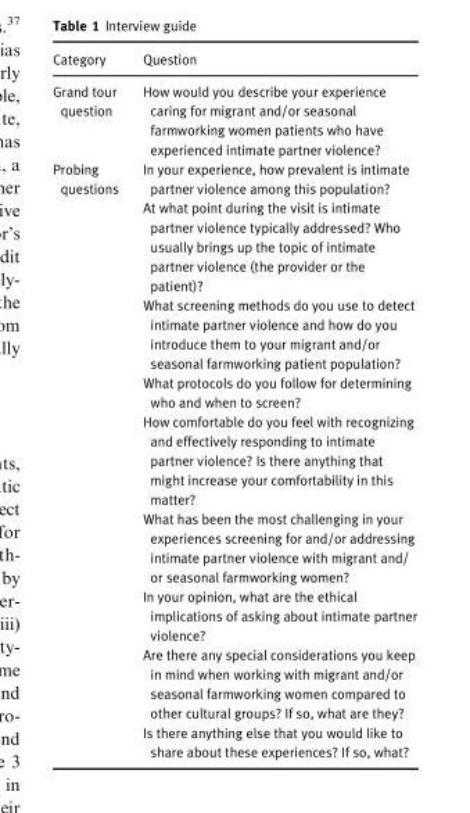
<table><thead><tr><td>Category</td><td>Question</td></tr></thead><tbody><tr><td>Grand tour question</td><td>How would you describe your experience caring for migrant and/or seasonal farmworking women patients who have experienced intimate partner violence?</td></tr><tr><td rowspan="9">Probing questions</td><td>In your experience, how prevalent is intimate partner violence among this population?</td></tr><tr><td>At what point during the visit is intimate partner violence typically addressed? Who usually brings up the topic of intimate partner violence (the provider or the patient)?</td></tr><tr><td>What screening methods do you use to detect intimate partner violence and how do you introduce them to your migrant and/or seasonal farmworking patient population?</td></tr><tr><td>What protocols do you follow for determining who and when to screen?</td></tr><tr><td>How comfortable do you feel with recognizing and effectively responding to intimate partner violence? Is there anything that might increase your comfortability in this matter?</td></tr><tr><td>What has been the most challenging in your experiences screening for and/or addressing intimate partner violence with migrant and/ or seasonal farmworking women?</td></tr><tr><td>In your opinion, what are the ethical implications of asking about intimate partner violence?</td></tr><tr><td>Are there any special considerations you keep in mind when working with migrant and/or seasonal farmworking women compared to other cultural groups? If so, what are they?</td></tr><tr><td>Is there anything else that you would like to share about these experiences? If so, what?</td></tr></tbody></table>